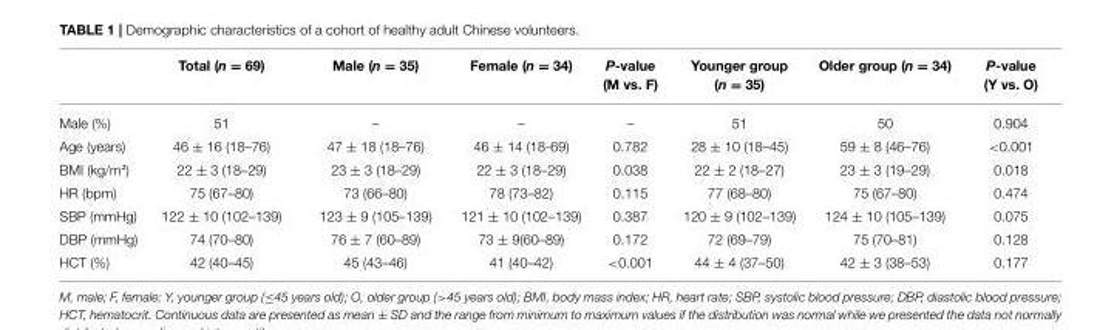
<table><thead><tr><td></td><td>Total (n = 69)</td><td>Male (n = 35)</td><td>Female (n = 34)</td><td>P-value (M vs. F)</td><td>Younger group (n = 35)</td><td>Older group (n = 34)</td><td>P-value (Y vs. O)</td></tr></thead><tbody><tr><td>Male (%)</td><td>51</td><td>–</td><td>–</td><td>–</td><td>51</td><td>50</td><td>0.904</td></tr><tr><td>Age (years)</td><td>46 ± 16 (18–76)</td><td>47 ± 18 (18–76)</td><td>46 ± 14 (18-69)</td><td>0.782</td><td>28 ± 10 (18–45)</td><td>59 ± 8 (46–76)</td><td>&lt;0.001</td></tr><tr><td>BMI (kg/m²)</td><td>22 ± 3 (18–29)</td><td>23 ± 3 (18–29)</td><td>22 ± 3 (18–29)</td><td>0.038</td><td>22 ± 2 (18–27)</td><td>23 ± 3 (19–29)</td><td>0.018</td></tr><tr><td>HR (bpm)</td><td>75 (67–80)</td><td>73 (66–80)</td><td>78 (73–82)</td><td>0.115</td><td>77 (68–80)</td><td>75 (67–80)</td><td>0.474</td></tr><tr><td>SBP (mmHg)</td><td>122 ± 10 (102–139)</td><td>123 ± 9 (105–139)</td><td>121 ± 10 (102–139)</td><td>0.387</td><td>120 ± 9 (102–139)</td><td>124 ± 10 (105–139)</td><td>0.075</td></tr><tr><td>DBP (mmHg)</td><td>74 (70–80)</td><td>76 ± 7 (60–89)</td><td>73 ± 9(60–89)</td><td>0.172</td><td>72 (69–79)</td><td>75 (70–81)</td><td>0.128</td></tr><tr><td>HCT (%)</td><td>42 (40–45)</td><td>45 (43–46)</td><td>41 (40–42)</td><td>&lt;0.001</td><td>44 ± 4 (37–50)</td><td>42 ± 3 (38–53)</td><td>0.177</td></tr></tbody></table>